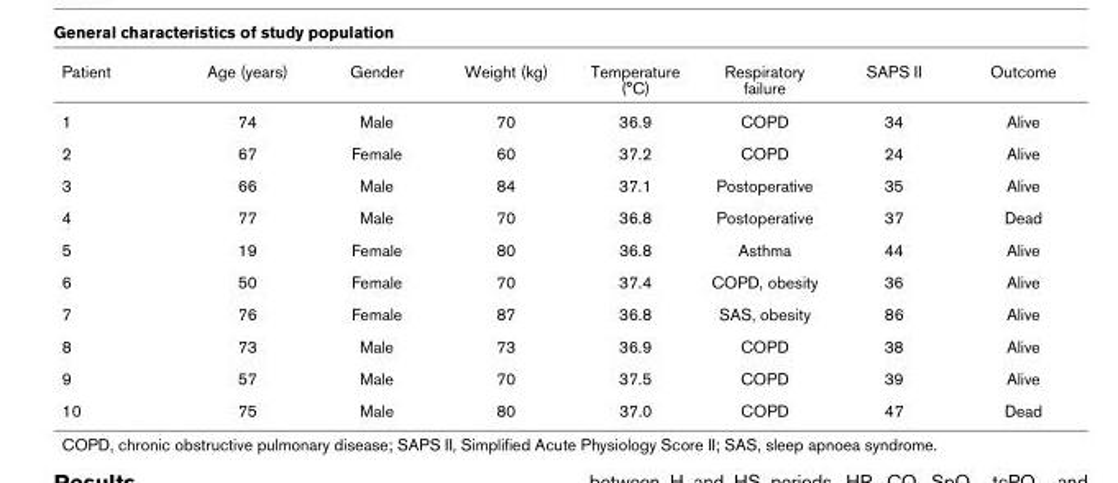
<table><thead><tr><td>Patient</td><td>Age (years)</td><td>Gender</td><td>Weight (kg)</td><td>Temperature (°C)</td><td>Respiratory failure</td><td>SAPS II</td><td>Outcome</td></tr></thead><tbody><tr><td>1</td><td>74</td><td>Male</td><td>70</td><td>36.9</td><td>COPD</td><td>34</td><td>Alive</td></tr><tr><td>2</td><td>67</td><td>Female</td><td>60</td><td>37.2</td><td>COPD</td><td>24</td><td>Alive</td></tr><tr><td>3</td><td>66</td><td>Male</td><td>84</td><td>37.1</td><td>Postoperative</td><td>35</td><td>Alive</td></tr><tr><td>4</td><td>77</td><td>Male</td><td>70</td><td>36.8</td><td>Postoperative</td><td>37</td><td>Dead</td></tr><tr><td>5</td><td>19</td><td>Female</td><td>80</td><td>36.8</td><td>Asthma</td><td>44</td><td>Alive</td></tr><tr><td>6</td><td>50</td><td>Female</td><td>70</td><td>37.4</td><td>COPD, obesity</td><td>36</td><td>Alive</td></tr><tr><td>7</td><td>76</td><td>Female</td><td>87</td><td>36.8</td><td>SAS, obesity</td><td>86</td><td>Alive</td></tr><tr><td>8</td><td>73</td><td>Male</td><td>73</td><td>36.9</td><td>COPD</td><td>38</td><td>Alive</td></tr><tr><td>9</td><td>57</td><td>Male</td><td>70</td><td>37.5</td><td>COPD</td><td>39</td><td>Alive</td></tr><tr><td>10</td><td>75</td><td>Male</td><td>80</td><td>37.0</td><td>COPD</td><td>47</td><td>Dead</td></tr></tbody></table>